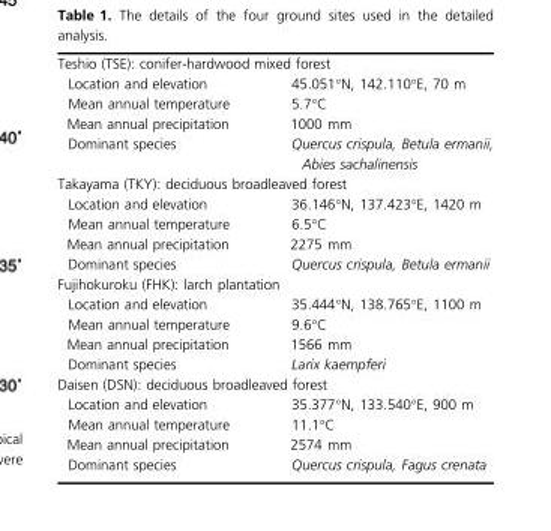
<table><tbody><tr><td colspan="2">Teshio (TSE): conifer-hardwood mixed forest</td></tr><tr><td>Location and elevation</td><td>45.051°N, 142.110°E, 70 m</td></tr><tr><td>Mean annual temperature Mean annual precipitation</td><td>5.7°C 1000 mm</td></tr><tr><td>Dominant species</td><td>Quercus crispula, Betula ermanii, Abies sachalinensis</td></tr><tr><td colspan="2">Takayama (TKY): deciduous broadleaved forest</td></tr><tr><td>Location and elevation</td><td>36.146°N, 137.423°E, 1420 m</td></tr><tr><td>Mean annual temperature Mean annual precipitation</td><td>6.5°C 2275 mm</td></tr><tr><td>Dominant species</td><td>Quercus crispula, Betula ermanii</td></tr><tr><td colspan="2">Fujihokuroku (FHK): larch plantation</td></tr><tr><td>Location and elevation</td><td>35.444°N, 138.765°E, 1100 m</td></tr><tr><td>Mean annual temperature Mean annual precipitation</td><td>9.6°C 1566 mm</td></tr><tr><td>Dominant species</td><td>Larix kaempferi</td></tr><tr><td colspan="2">Daisen (DSN): deciduous broadleaved forest</td></tr><tr><td>Location and elevation</td><td>35.377°N, 133.540°E, 900 m</td></tr><tr><td>Mean annual temperature Mean annual precipitation</td><td>11.1°C 2574 mm</td></tr><tr><td>Dominant species</td><td>Quercus crispula, Fagus crenata</td></tr></tbody></table>